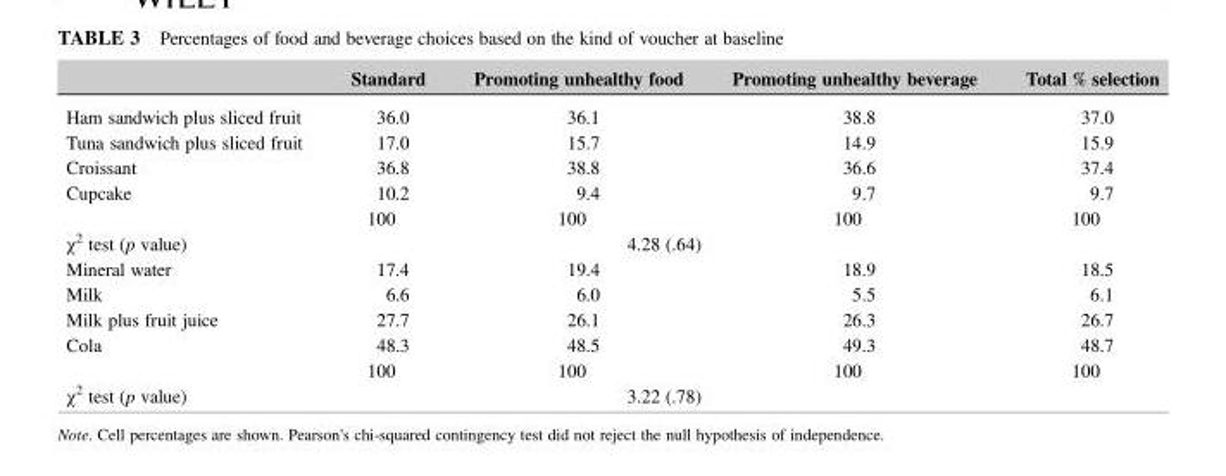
<table><thead><tr><td></td><td>Standard</td><td>Promoting unhealthy food</td><td>Promoting unhealthy beverage</td><td>Total % selection</td></tr></thead><tbody><tr><td>Ham sandwich plus sliced fruit</td><td>36.0</td><td>36.1</td><td>38.8</td><td>37.0</td></tr><tr><td>Tuna sandwich plus sliced fruit</td><td>17.0</td><td>15.7</td><td>14.9</td><td>15.9</td></tr><tr><td>Croissant</td><td>36.8</td><td>38.8</td><td>36.6</td><td>37.4</td></tr><tr><td rowspan="2">Cupcake</td><td>10.2</td><td>9.4</td><td>9.7</td><td>9.7</td></tr><tr><td>100</td><td>100</td><td>100</td><td>100</td></tr><tr><td>χ<sup>2</sup> test (p value)</td><td colspan="3">4.28 (.64)</td><td></td></tr><tr><td>Mineral water</td><td>17.4</td><td>19.4</td><td>18.9</td><td>18.5</td></tr><tr><td>Milk</td><td>6.6</td><td>6.0</td><td>5.5</td><td>6.1</td></tr><tr><td>Milk plus fruit juice</td><td>27.7</td><td>26.1</td><td>26.3</td><td>26.7</td></tr><tr><td rowspan="2">Cola</td><td>48.3</td><td>48.5</td><td>49.3</td><td>48.7</td></tr><tr><td>100</td><td>100</td><td>100</td><td>100</td></tr><tr><td>χ<sup>2</sup> test (p value)</td><td colspan="3">3.22 (.78)</td><td></td></tr></tbody></table>